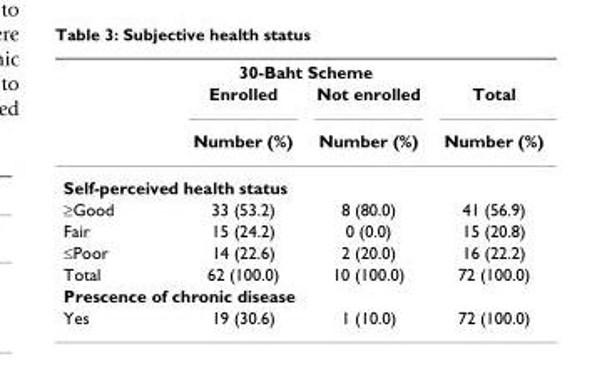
<table><thead><tr><td rowspan="3"></td><td colspan="2">30-Baht Scheme</td><td rowspan="3">Total Number (%)</td></tr><tr><td rowspan="2">Enrolled Number (%)</td><td rowspan="2">Not enrolled Number (%)</td></tr><tr></tr></thead><tbody><tr><td colspan="4">Self-perceived health status</td></tr><tr><td>≥Good</td><td>33 (53.2)</td><td>8 (80.0)</td><td>41 (56.9)</td></tr><tr><td>Fair</td><td>15 (24.2)</td><td>0 (0.0)</td><td>15 (20.8)</td></tr><tr><td>≤Poor</td><td>14 (22.6)</td><td>2 (20.0)</td><td>16 (22.2)</td></tr><tr><td>Total</td><td>62 (100.0)</td><td>10 (100.0)</td><td>72 (100.0)</td></tr><tr><td colspan="4">Prescence of chronic disease</td></tr><tr><td>Yes</td><td>19 (30.6)</td><td>1 (10.0)</td><td>72 (100.0)</td></tr></tbody></table>